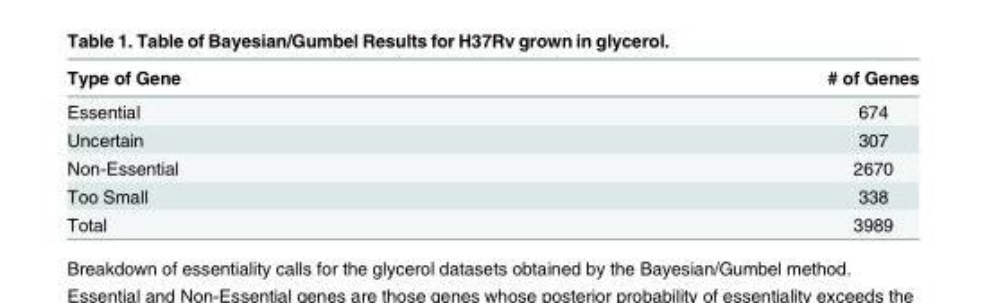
<table><thead><tr><td>Type of Gene</td><td># of Genes</td></tr></thead><tbody><tr><td>Essential</td><td>674</td></tr><tr><td>Uncertain</td><td>307</td></tr><tr><td>Non-Essential</td><td>2670</td></tr><tr><td>Too Small</td><td>338</td></tr><tr><td>Total</td><td>3989</td></tr></tbody></table>